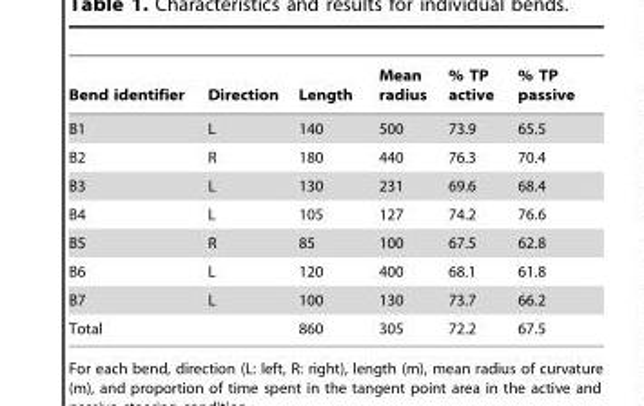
<table><thead><tr><td>Bend identifier</td><td>Direction</td><td>Length</td><td>Mean radius</td><td>% TP active</td><td>% TP passive</td></tr></thead><tbody><tr><td>B1</td><td>L</td><td>140</td><td>500</td><td>73.9</td><td>65.5</td></tr><tr><td>B2</td><td>R</td><td>180</td><td>440</td><td>76.3</td><td>70.4</td></tr><tr><td>B3</td><td>L</td><td>130</td><td>231</td><td>69.6</td><td>68.4</td></tr><tr><td>B4</td><td>L</td><td>105</td><td>127</td><td>74.2</td><td>76.6</td></tr><tr><td>B5</td><td>R</td><td>85</td><td>100</td><td>67.5</td><td>62.8</td></tr><tr><td>B6</td><td>L</td><td>120</td><td>400</td><td>68.1</td><td>61.8</td></tr><tr><td>B7</td><td>L</td><td>100</td><td>130</td><td>73.7</td><td>66.2</td></tr><tr><td>Total</td><td></td><td>860</td><td>305</td><td>72.2</td><td>67.5</td></tr></tbody></table>